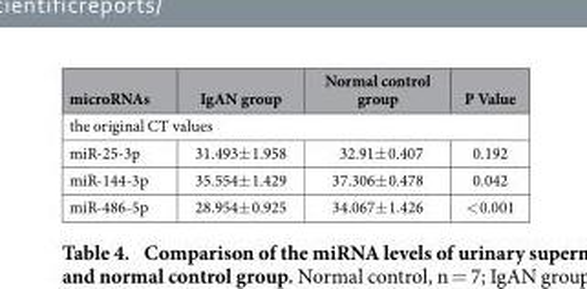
<table><thead><tr><td>microRNAs</td><td>IgAN group</td><td>Normal control group</td><td>P Value</td></tr></thead><tbody><tr><td colspan="4">the original CT values</td></tr><tr><td>miR-25-3p</td><td>31.493± 1.958</td><td>32.91± 0.407</td><td>0.192</td></tr><tr><td>miR-144-3p</td><td>35.554± 1.429</td><td>37.306± 0.478</td><td>0.042</td></tr><tr><td>miR-486-5p</td><td>28.954± 0.925</td><td>34.067± 1.426</td><td>&lt; 0.001</td></tr></tbody></table>